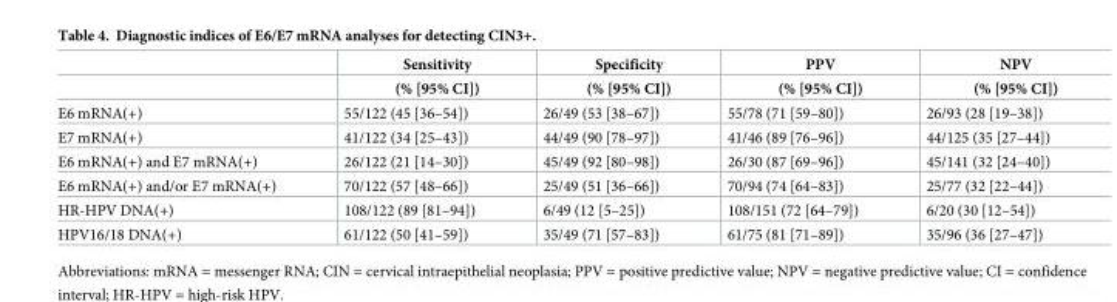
<table><thead><tr><td rowspan="2"></td><td rowspan="2">Sensitivity (% [95% CI])</td><td rowspan="2">Specificity (% [95% CI])</td><td rowspan="2">PPV (% [95% CI])</td><td rowspan="2">NPV (% [95% CI])</td></tr><tr></tr></thead><tbody><tr><td>E6 mRNA(+)</td><td>55/122 (45 [36–54])</td><td>26/49 (53 [38–67])</td><td>55/78 (71 [59–80])</td><td>26/93 (28 [19–38])</td></tr><tr><td>E7 mRNA(+)</td><td>41/122 (34 [25–43])</td><td>44/49 (90 [78–97])</td><td>41/46 (89 [76–96])</td><td>44/125 (35 [27–44])</td></tr><tr><td>E6 mRNA(+) and E7 mRNA(+)</td><td>26/122 (21 [14–30])</td><td>45/49 (92 [80–98])</td><td>26/30 (87 [69–96])</td><td>45/141 (32 [24–40])</td></tr><tr><td>E6 mRNA(+) and/or E7 mRNA(+)</td><td>70/122 (57 [48–66])</td><td>25/49 (51 [36–66])</td><td>70/94 (74 [64–83])</td><td>25/77 (32 [22–44])</td></tr><tr><td>HR-HPV DNA(+)</td><td>108/122 (89 [81–94])</td><td>6/49 (12 [5–25])</td><td>108/151 (72 [64–79])</td><td>6/20 (30 [12–54])</td></tr><tr><td>HPV16/18 DNA(+)</td><td>61/122 (50 [41–59])</td><td>35/49 (71 [57–83])</td><td>61/75 (81 [71–89])</td><td>35/96 (36 [27–47])</td></tr></tbody></table>